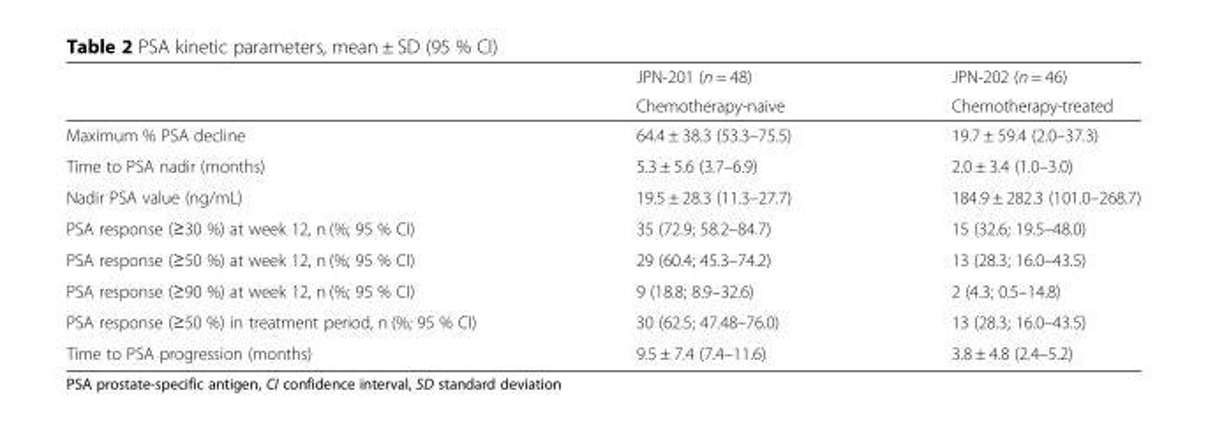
<table><thead><tr><td rowspan="2"></td><td rowspan="2">JPN-201 (n = 48) Chemotherapy-naive</td><td rowspan="2">JPN-202 (n = 46) Chemotherapy-treated</td></tr><tr></tr></thead><tbody><tr><td>Maximum % PSA decline</td><td>64.4 ± 38.3 (53.3–75.5)</td><td>19.7 ± 59.4 (2.0–37.3)</td></tr><tr><td>Time to PSA nadir (months)</td><td>5.3 ± 5.6 (3.7–6.9)</td><td>2.0 ± 3.4 (1.0–3.0)</td></tr><tr><td>Nadir PSA value (ng/mL)</td><td>19.5 ± 28.3 (11.3–27.7)</td><td>184.9 ± 282.3 (101.0–268.7)</td></tr><tr><td>PSA response (≥30 %) at week 12, n (%; 95 % CI)</td><td>35 (72.9; 58.2–84.7)</td><td>15 (32.6; 19.5–48.0)</td></tr><tr><td>PSA response (≥50 %) at week 12, n (%; 95 % CI)</td><td>29 (60.4; 45.3–74.2)</td><td>13 (28.3; 16.0–43.5)</td></tr><tr><td>PSA response (≥90 %) at week 12, n (%; 95 % CI)</td><td>9 (18.8; 8.9–32.6)</td><td>2 (4.3; 0.5–14.8)</td></tr><tr><td>PSA response (≥50 %) in treatment period, n (%; 95 % CI)</td><td>30 (62.5; 47.48–76.0)</td><td>13 (28.3; 16.0–43.5)</td></tr><tr><td>Time to PSA progression (months)</td><td>9.5 ± 7.4 (7.4–11.6)</td><td>3.8 ± 4.8 (2.4–5.2)</td></tr></tbody></table>